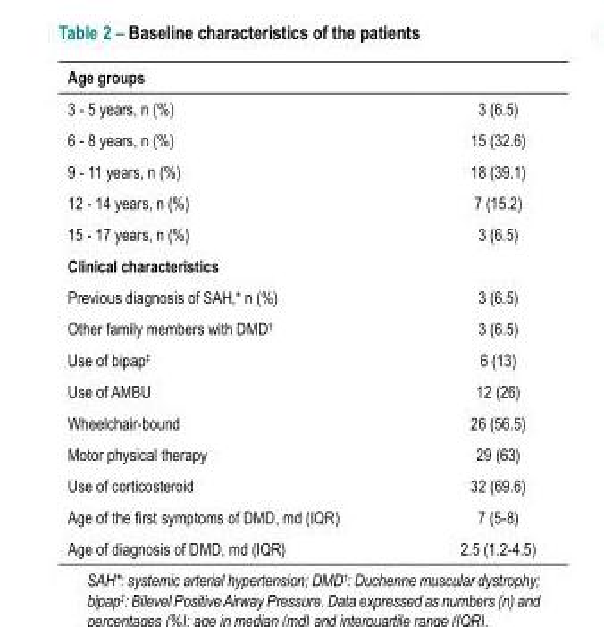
<table><thead><tr><td>Age groups</td><td></td></tr></thead><tbody><tr><td>3 - 5 years, n (%)</td><td>3 (6.5)</td></tr><tr><td>6 - 8 years, n (%)</td><td>15 (32.6)</td></tr><tr><td>9 - 11 years, n (%)</td><td>18 (39.1)</td></tr><tr><td>12 - 14 years, n (%)</td><td>7 (15.2)</td></tr><tr><td>15 - 17 years, n (%)</td><td>3 (6.5)</td></tr><tr><td colspan="2">Clinical characteristics</td></tr><tr><td>Previous diagnosis of SAH,* n (%)</td><td>3 (6.5)</td></tr><tr><td>Other family members with DMD<sup>†</sup></td><td>3 (6.5)</td></tr><tr><td>Use of bipap<sup>‡</sup></td><td>6 (13)</td></tr><tr><td>Use of AMBU</td><td>12 (26)</td></tr><tr><td>Wheelchair-bound</td><td>26 (56.5)</td></tr><tr><td>Motor physical therapy</td><td>29 (63)</td></tr><tr><td>Use of corticosteroid</td><td>32 (69.6)</td></tr><tr><td>Age of the first symptoms of DMD, md (IQR)</td><td>7 (5-8)</td></tr><tr><td>Age of diagnosis of DMD, md (IQR)</td><td>2.5 (1.2-4.5)</td></tr></tbody></table>